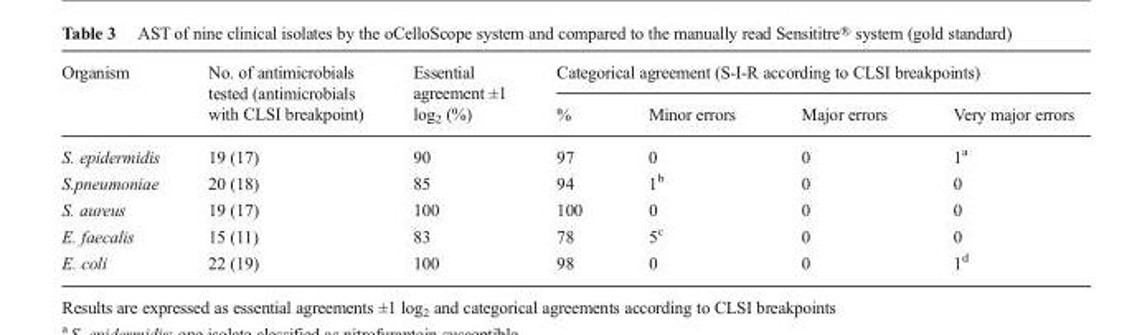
<table><thead><tr><td rowspan="2">Organism</td><td rowspan="2">No. of antimicrobials tested (antimicrobials with CLSI breakpoint)</td><td rowspan="2">Essential agreement ±1 log<sub>2</sub> (%)</td><td colspan="4">Categorical agreement (S-I-R according to CLSI breakpoints)</td></tr><tr><td>%</td><td>Minor errors</td><td>Major errors</td><td>Very major errors</td></tr></thead><tbody><tr><td>S. epidermidis</td><td>19 (17)</td><td>90</td><td>97</td><td>0</td><td>0</td><td>1<sup>a</sup></td></tr><tr><td>S.pneumoniae</td><td>20 (18)</td><td>85</td><td>94</td><td>1<sup>b</sup></td><td>0</td><td>0</td></tr><tr><td>S. aureus</td><td>19 (17)</td><td>100</td><td>100</td><td>0</td><td>0</td><td>0</td></tr><tr><td>E. faecalis</td><td>15 (11)</td><td>83</td><td>78</td><td>5<sup>c</sup></td><td>0</td><td>0</td></tr><tr><td>E. coli</td><td>22 (19)</td><td>100</td><td>98</td><td>0</td><td>0</td><td>1<sup>d</sup></td></tr></tbody></table>